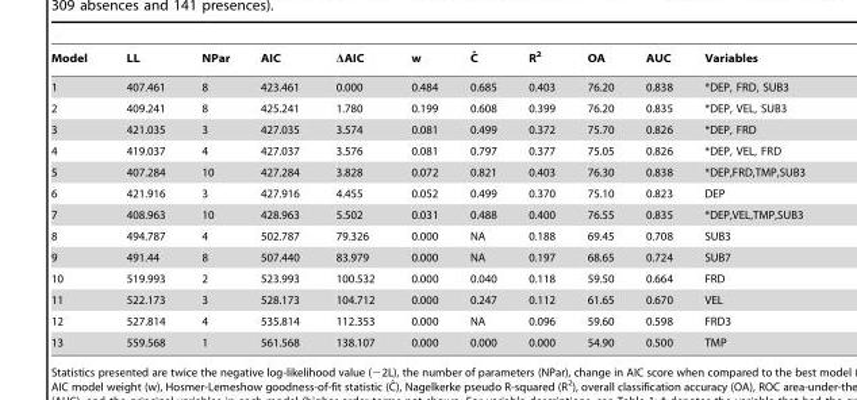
<table><thead><tr><td>Model</td><td>LL</td><td>NPar</td><td>AIC</td><td>ΔAIC</td><td>w</td><td>Cˆ</td><td>R<sup>2</sup></td><td>OA</td><td>AUC</td><td>Variables</td></tr></thead><tbody><tr><td>1</td><td>407.461</td><td>8</td><td>423.461</td><td>0.000</td><td>0.484</td><td>0.685</td><td>0.403</td><td>76.20</td><td>0.838</td><td>*DEP, FRD, SUB3</td></tr><tr><td>2</td><td>409.241</td><td>8</td><td>425.241</td><td>1.780</td><td>0.199</td><td>0.608</td><td>0.399</td><td>76.20</td><td>0.835</td><td>*DEP, VEL, SUB3</td></tr><tr><td>3</td><td>421.035</td><td>3</td><td>427.035</td><td>3.574</td><td>0.081</td><td>0.499</td><td>0.372</td><td>75.70</td><td>0.826</td><td>*DEP, FRD</td></tr><tr><td>4</td><td>419.037</td><td>4</td><td>427.037</td><td>3.576</td><td>0.081</td><td>0.797</td><td>0.377</td><td>75.05</td><td>0.826</td><td>*DEP, VEL, FRD</td></tr><tr><td>5</td><td>407.284</td><td>10</td><td>427.284</td><td>3.828</td><td>0.072</td><td>0.821</td><td>0.403</td><td>76.30</td><td>0.838</td><td>*DEP,FRD,TMP,SUB3</td></tr><tr><td>6</td><td>421.916</td><td>3</td><td>427.916</td><td>4.455</td><td>0.052</td><td>0.499</td><td>0.370</td><td>75.10</td><td>0.823</td><td>DEP</td></tr><tr><td>7</td><td>408.963</td><td>10</td><td>428.963</td><td>5.502</td><td>0.031</td><td>0.488</td><td>0.400</td><td>76.55</td><td>0.835</td><td>*DEP,VEL,TMP,SUB3</td></tr><tr><td>8</td><td>494.787</td><td>4</td><td>502.787</td><td>79.326</td><td>0.000</td><td>NA</td><td>0.188</td><td>69.45</td><td>0.708</td><td>SUB3</td></tr><tr><td>9</td><td>491.44</td><td>8</td><td>507.440</td><td>83.979</td><td>0.000</td><td>NA</td><td>0.197</td><td>68.65</td><td>0.724</td><td>SUB7</td></tr><tr><td>10</td><td>519.993</td><td>2</td><td>523.993</td><td>100.532</td><td>0.000</td><td>0.040</td><td>0.118</td><td>59.50</td><td>0.664</td><td>FRD</td></tr><tr><td>11</td><td>522.173</td><td>3</td><td>528.173</td><td>104.712</td><td>0.000</td><td>0.247</td><td>0.112</td><td>61.65</td><td>0.670</td><td>VEL</td></tr><tr><td>12</td><td>527.814</td><td>4</td><td>535.814</td><td>112.353</td><td>0.000</td><td>NA</td><td>0.096</td><td>59.60</td><td>0.598</td><td>FRD3</td></tr><tr><td>13</td><td>559.568</td><td>1</td><td>561.568</td><td>138.107</td><td>0.000</td><td>0.000</td><td>0.000</td><td>54.90</td><td>0.500</td><td>TMP</td></tr></tbody></table>